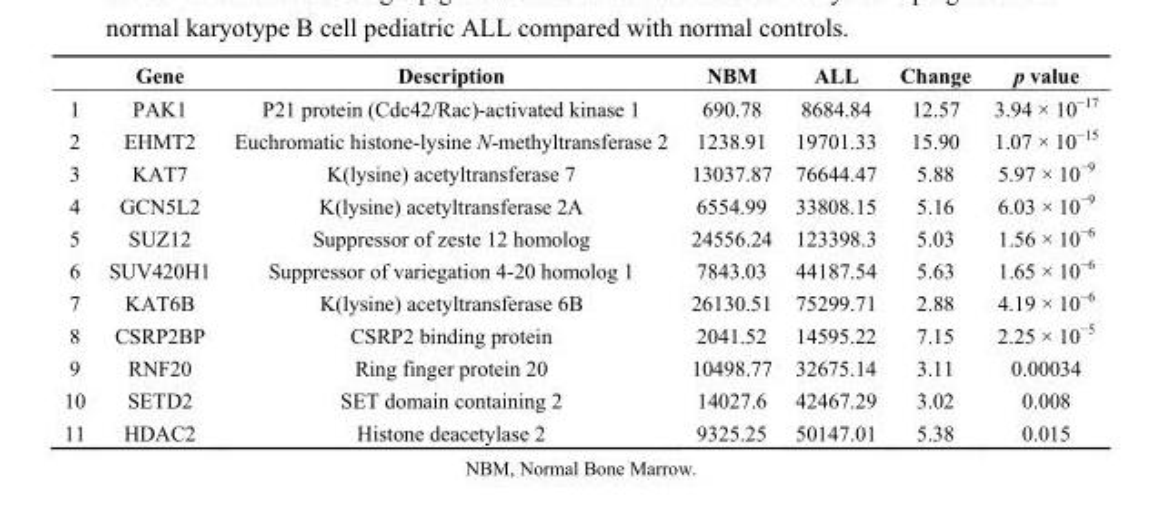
<table><thead><tr><td></td><td>Gene</td><td>Description</td><td>NBM</td><td>ALL</td><td>Change</td><td>p value</td></tr></thead><tbody><tr><td>1</td><td>PAK1</td><td>P21 protein (Cdc42/Rac)-activated kinase 1</td><td>690.78</td><td>8684.84</td><td>12.57</td><td>3.94 × 10<sup>−17</sup></td></tr><tr><td>2</td><td>EHMT2</td><td>Euchromatic histone-lysine N-methyltransferase 2</td><td>1238.91</td><td>19701.33</td><td>15.90</td><td>1.07 × 10<sup>−15</sup></td></tr><tr><td>3</td><td>KAT7</td><td>K(lysine) acetyltransferase 7</td><td>13037.87</td><td>76644.47</td><td>5.88</td><td>5.97 × 10<sup>−9</sup></td></tr><tr><td>4</td><td>GCN5L2</td><td>K(lysine) acetyltransferase 2A</td><td>6554.99</td><td>33808.15</td><td>5.16</td><td>6.03 × 10<sup>−9</sup></td></tr><tr><td>5</td><td>SUZ12</td><td>Suppressor of zeste 12 homolog</td><td>24556.24</td><td>123398.3</td><td>5.03</td><td>1.56 × 10<sup>−6</sup></td></tr><tr><td>6</td><td>SUV420H1</td><td>Suppressor of variegation 4-20 homolog 1</td><td>7843.03</td><td>44187.54</td><td>5.63</td><td>1.65 × 10<sup>−6</sup></td></tr><tr><td>7</td><td>KAT6B</td><td>K(lysine) acetyltransferase 6B</td><td>26130.51</td><td>75299.71</td><td>2.88</td><td>4.19 × 10<sup>−6</sup></td></tr><tr><td>8</td><td>CSRP2BP</td><td>CSRP2 binding protein</td><td>2041.52</td><td>14595.22</td><td>7.15</td><td>2.25 × 10<sup>−5</sup></td></tr><tr><td>9</td><td>RNF20</td><td>Ring finger protein 20</td><td>10498.77</td><td>32675.14</td><td>3.11</td><td>0.00034</td></tr><tr><td>10</td><td>SETD2</td><td>SET domain containing 2</td><td>14027.6</td><td>42467.29</td><td>3.02</td><td>0.008</td></tr><tr><td>11</td><td>HDAC2</td><td>Histone deacetylase 2</td><td>9325.25</td><td>50147.01</td><td>5.38</td><td>0.015</td></tr></tbody></table>